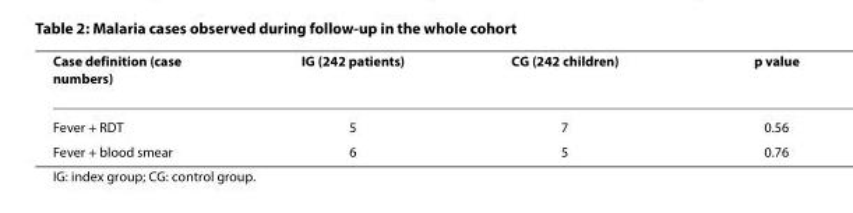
<table><thead><tr><td>Case definition (case numbers)</td><td>IG (242 patients)</td><td>CG (242 children)</td><td>p value</td></tr></thead><tbody><tr><td>Fever + RDT</td><td>5</td><td>7</td><td>0.56</td></tr><tr><td>Fever + blood smear</td><td>6</td><td>5</td><td>0.76</td></tr></tbody></table>